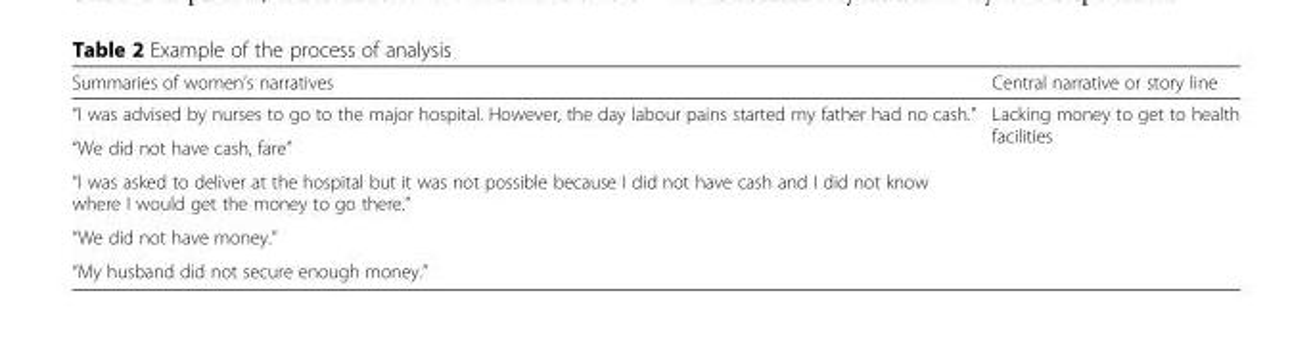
<table><thead><tr><td>Summaries of women’s narratives</td><td>Central narrative or story line</td></tr></thead><tbody><tr><td>“I was advised by nurses to go to the major hospital. However, the day labour pains started my father had no cash.”</td><td rowspan="5">Lacking money to get to health facilities</td></tr><tr><td>“We did not have cash, fare”</td></tr><tr><td>“I was asked to deliver at the hospital but it was not possible because I did not have cash and I did not know where I would get the money to go there.”</td></tr><tr><td>“We did not have money.”</td></tr><tr><td>“My husband did not secure enough money.”</td></tr></tbody></table>